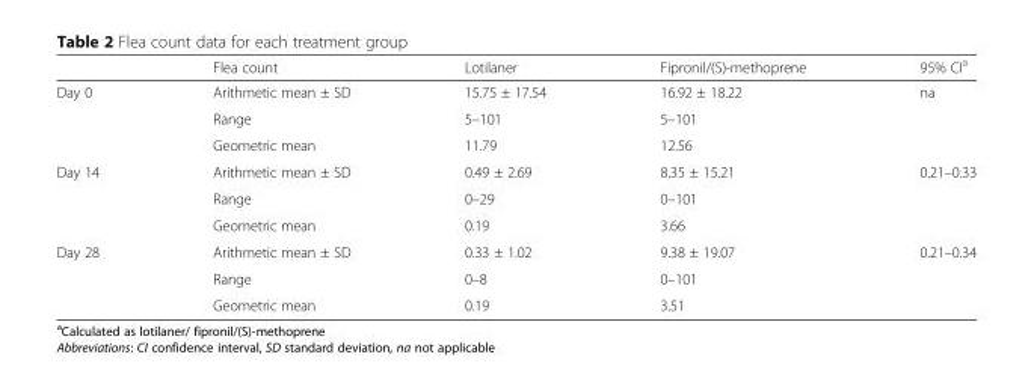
<table><thead><tr><td></td><td>Flea count</td><td>Lotilaner</td><td>Fipronil/(S)-methoprene</td><td>95% CI<sup>a</sup></td></tr></thead><tbody><tr><td rowspan="3">Day 0</td><td>Arithmetic mean ± SD</td><td>15.75 ± 17.54</td><td>16.92 ± 18.22</td><td>na</td></tr><tr><td>Range</td><td>5–101</td><td>5–101</td><td></td></tr><tr><td>Geometric mean</td><td>11.79</td><td>12.56</td><td></td></tr><tr><td rowspan="3">Day 14</td><td>Arithmetic mean ± SD</td><td>0.49 ± 2.69</td><td>8.35 ± 15.21</td><td>0.21–0.33</td></tr><tr><td>Range</td><td>0–29</td><td>0–101</td><td></td></tr><tr><td>Geometric mean</td><td>0.19</td><td>3.66</td><td></td></tr><tr><td rowspan="3">Day 28</td><td>Arithmetic mean ± SD</td><td>0.33 ± 1.02</td><td>9.38 ± 19.07</td><td>0.21–0.34</td></tr><tr><td>Range</td><td>0–8</td><td>0–101</td><td></td></tr><tr><td>Geometric mean</td><td>0.19</td><td>3.51</td><td></td></tr></tbody></table>